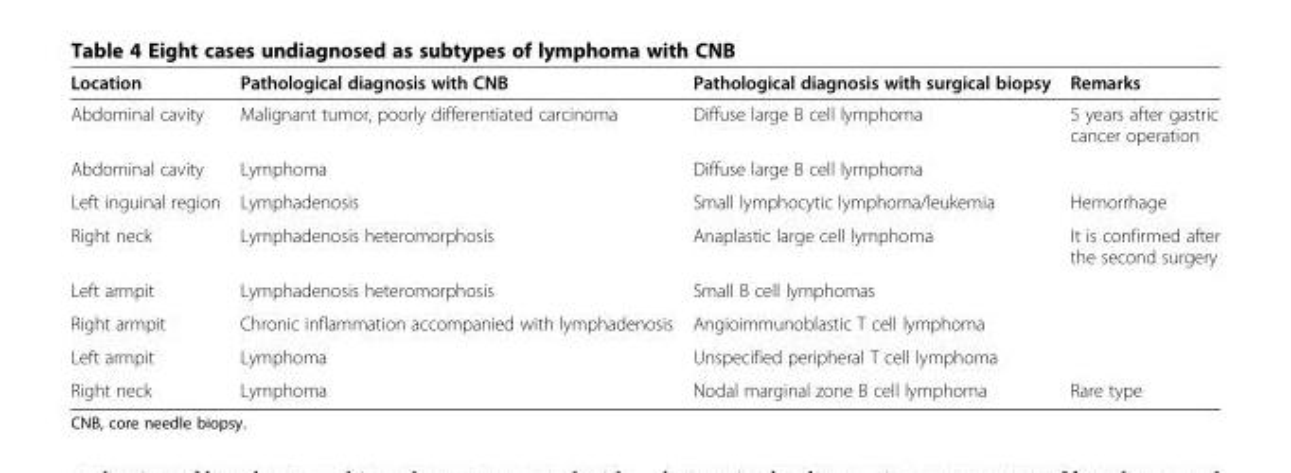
<table><thead><tr><td>Location</td><td>Pathological diagnosis with CNB</td><td>Pathological diagnosis with surgical biopsy</td><td>Remarks</td></tr></thead><tbody><tr><td>Abdominal cavity</td><td>Malignant tumor, poorly differentiated carcinoma</td><td>Diffuse large B cell lymphoma</td><td>5 years after gastric cancer operation</td></tr><tr><td>Abdominal cavity</td><td>Lymphoma</td><td>Diffuse large B cell lymphoma</td><td></td></tr><tr><td>Left inguinal region</td><td>Lymphadenosis</td><td>Small lymphocytic lymphoma/leukemia</td><td>Hemorrhage</td></tr><tr><td>Right neck</td><td>Lymphadenosis heteromorphosis</td><td>Anaplastic large cell lymphoma</td><td>It is confirmed after the second surgery</td></tr><tr><td>Left armpit</td><td>Lymphadenosis heteromorphosis</td><td>Small B cell lymphomas</td><td></td></tr><tr><td>Right armpit</td><td>Chronic inflammation accompanied with lymphadenosis</td><td>Angioimmunoblastic T cell lymphoma</td><td></td></tr><tr><td>Left armpit</td><td>Lymphoma</td><td>Unspecified peripheral T cell lymphoma</td><td></td></tr><tr><td>Right neck</td><td>Lymphoma</td><td>Nodal marginal zone B cell lymphoma</td><td>Rare type</td></tr></tbody></table>